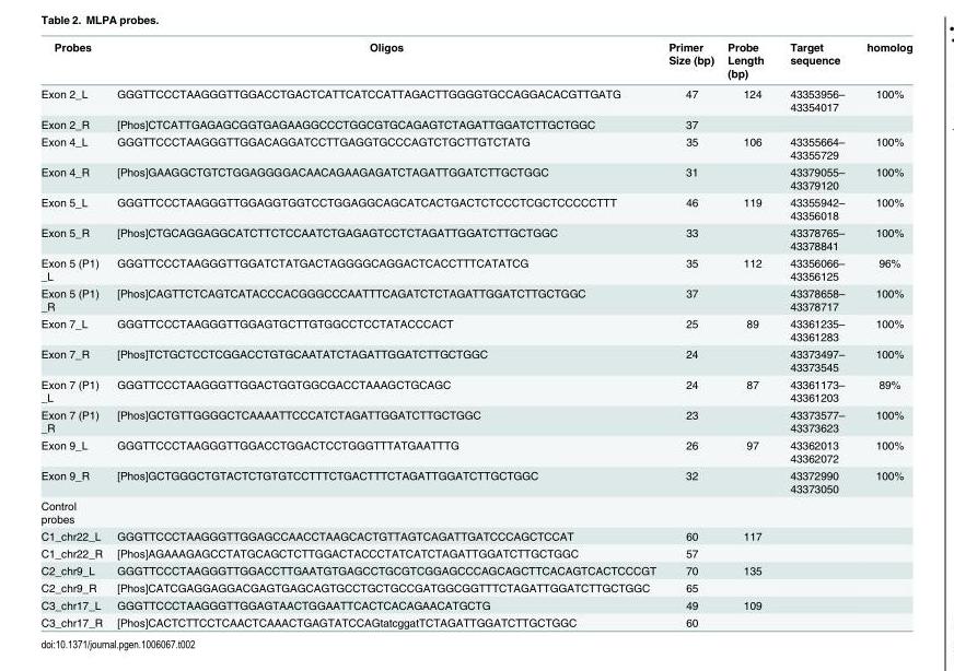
<table><thead><tr><td>Probes</td><td>Oligos</td><td>Primer Size (bp)</td><td>Probe Length (bp)</td><td>Target sequence</td><td>homolog</td></tr></thead><tbody><tr><td>Exon 2_L</td><td>GGGTTCCCTAAGGGTTGGACCTGACTCATTCATCCATTAGACTTGGGGTGCCAGGACACGTTGATG</td><td>47</td><td>124</td><td>43353956– 43354017</td><td>100%</td></tr><tr><td>Exon 2_R</td><td>[Phos]CTCATTGAGAGCGGTGAGAAGGCCCTGGCGTGCAGAGTCTAGATTGGATCTTGCTGGC</td><td>37</td><td></td><td></td><td></td></tr><tr><td>Exon 4_L</td><td>GGGTTCCCTAAGGGTTGGACAGGATCCTTGAGGTGCCCAGTCTGCTTGTCTATG</td><td>35</td><td>106</td><td>43355664– 43355729</td><td>100%</td></tr><tr><td>Exon 4_R</td><td>[Phos]GAAGGCTGTCTGGAGGGGACAACAGAAGAGATCTAGATTGGATCTTGCTGGC</td><td>31</td><td></td><td>43379055– 43379120</td><td>100%</td></tr><tr><td>Exon 5_L</td><td>GGGTTCCCTAAGGGTTGGAGGTGGTCCTGGAGGCAGCATCACTGACTCTCCCTCGCTCCCCCTTT</td><td>46</td><td>119</td><td>43355942– 43356018</td><td>100%</td></tr><tr><td>Exon 5_R</td><td>[Phos]CTGCAGGAGGCATCTTCTCCAATCTGAGAGTCCTCTAGATTGGATCTTGCTGGC</td><td>33</td><td></td><td>43378765– 43378841</td><td>100%</td></tr><tr><td>Exon 5 (P1) _L</td><td>GGGTTCCCTAAGGGTTGGATCTATGACTAGGGGCAGGACTCACCTTTCATATCG</td><td>35</td><td>112</td><td>43356066– 43356125</td><td>96%</td></tr><tr><td>Exon 5 (P1) _R</td><td>[Phos]CAGTTCTCAGTCATACCCACGGGCCCAATTTCAGATCTCTAGATTGGATCTTGCTGGC</td><td>37</td><td></td><td>43378658– 43378717</td><td>100%</td></tr><tr><td>Exon 7_L</td><td>GGGTTCCCTAAGGGTTGGAGTGCTTGTGGCCTCCTATACCCACT</td><td>25</td><td>89</td><td>43361235– 43361283</td><td>100%</td></tr><tr><td>Exon 7_R</td><td>[Phos]TCTGCTCCTCGGACCTGTGCAATATCTAGATTGGATCTTGCTGGC</td><td>24</td><td></td><td>43373497– 43373545</td><td>100%</td></tr><tr><td>Exon 7 (P1) _L</td><td>GGGTTCCCTAAGGGTTGGACTGGTGGCGACCTAAAGCTGCAGC</td><td>24</td><td>87</td><td>43361173– 43361203</td><td>89%</td></tr><tr><td>Exon 7 (P1) _R</td><td>[Phos]GCTGTTGGGGCTCAAAATTCCCATCTAGATTGGATCTTGCTGGC</td><td>23</td><td></td><td>43373577– 43373623</td><td>100%</td></tr><tr><td>Exon 9_L</td><td>GGGTTCCCTAAGGGTTGGACCTGGACTCCTGGGTTTATGAATTTG</td><td>26</td><td>97</td><td>43362013 43362072</td><td>100%</td></tr><tr><td>Exon 9_R</td><td>[Phos]GCTGGGCTGTACTCTGTGTCCTTTCTGACTTTCTAGATTGGATCTTGCTGGC</td><td>32</td><td></td><td>43372990 43373050</td><td>100%</td></tr><tr><td colspan="6">Control probes</td></tr><tr><td>C1_chr22_L</td><td>GGGTTCCCTAAGGGTTGGAGCCAACCTAAGCACTGTTAGTCAGATTGATCCCAGCTCCAT</td><td>60</td><td>117</td><td></td><td></td></tr><tr><td>C1_chr22_R</td><td>[Phos]AGAAAGAGCCTATGCAGCTCTTGGACTACCCTATCATCTAGATTGGATCTTGCTGGC</td><td>57</td><td></td><td></td><td></td></tr><tr><td>C2_chr9_L</td><td>GGGTTCCCTAAGGGTTGGACCTTGAATGTGAGCCTGCGTCGGAGCCCAGCAGCTTCACAGTCACTCCCGT</td><td>70</td><td>135</td><td></td><td></td></tr><tr><td>C2_chr9_R</td><td>[Phos]CATCGAGGAGGACGAGTGAGCAGTGCCTGCTGCCGATGGCGGTTTCTAGATTGGATCTTGCTGGC</td><td>65</td><td></td><td></td><td></td></tr><tr><td>C3_chr17_L</td><td>GGGTTCCCTAAGGGTTGGAGTAACTGGAATTCACTCACAGAACATGCTG</td><td>49</td><td>109</td><td></td><td></td></tr><tr><td>C3_chr17_R</td><td>[Phos]CACTCTTCCTCAACTCAAACTGAGTATCCAGtatcggatTCTAGATTGGATCTTGCTGGC</td><td>60</td><td></td><td></td><td></td></tr></tbody></table>